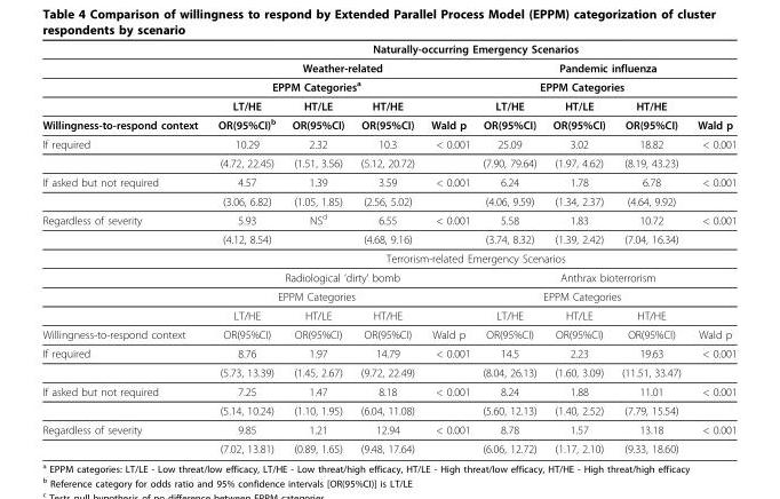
<table><thead><tr><td rowspan="4"></td><td colspan="8">Naturally-occurring Emergency Scenarios</td></tr><tr><td colspan="4">Weather-related</td><td colspan="4">Pandemic influenza</td></tr><tr><td colspan="3">EPPM Categories<sup>a</sup></td><td rowspan="2"></td><td colspan="3">EPPM Categories</td><td rowspan="2"></td></tr><tr><td>LT/HE</td><td>HT/LE</td><td>HT/HE</td><td>LT/HE</td><td>HT/LE</td><td>HT/HE</td></tr></thead><tbody><tr><td>Willingness-to-respond context</td><td>OR(95%CI)<sup>b</sup></td><td>OR(95%CI)</td><td>OR(95%CI)</td><td>Wald p</td><td>OR(95%CI)</td><td>OR(95%CI)</td><td>OR(95%CI)</td><td>Wald p</td></tr><tr><td rowspan="2">If required</td><td>10.29</td><td>2.32</td><td>10.3</td><td>&lt; 0.001</td><td>25.09</td><td>3.02</td><td>18.82</td><td>&lt; 0.001</td></tr><tr><td>(4.72, 22.45)</td><td>(1.51, 3.56)</td><td>(5.12, 20.72)</td><td></td><td>(7.90, 79.64)</td><td>(1.97, 4.62)</td><td>(8.19, 43.23)</td><td></td></tr><tr><td rowspan="2">If asked but not required</td><td>4.57</td><td>1.39</td><td>3.59</td><td>&lt; 0.001</td><td>6.24</td><td>1.78</td><td>6.78</td><td>&lt; 0.001</td></tr><tr><td>(3.06, 6.82)</td><td>(1.05, 1.85)</td><td>(2.56, 5.02)</td><td></td><td>(4.06, 9.59)</td><td>(1.34, 2.37)</td><td>(4.64, 9.92)</td><td></td></tr><tr><td rowspan="6">Regardless of severity</td><td>5.93</td><td>NS<sup>d</sup></td><td>6.55</td><td>&lt; 0.001</td><td>5.58</td><td>1.83</td><td>10.72</td><td>&lt; 0.001</td></tr><tr><td>(4.12, 8.54)</td><td></td><td>(4.68, 9.16)</td><td></td><td>(3.74, 8.32)</td><td>(1.39, 2.42)</td><td>(7.04, 16.34)</td><td></td></tr><tr><td colspan="8">Terrorism-related Emergency Scenarios</td></tr><tr><td colspan="4">Radiological ‘dirty’ bomb</td><td colspan="4">Anthrax bioterrorism</td></tr><tr><td colspan="3">EPPM Categories</td><td></td><td colspan="3">EPPM Categories</td><td></td></tr><tr><td>LT/HE</td><td>HT/LE</td><td>HT/HE</td><td></td><td>LT/HE</td><td>HT/LE</td><td>HT/HE</td><td></td></tr><tr><td>Willingness-to-respond context</td><td>OR(95%CI)</td><td>OR(95%CI)</td><td>OR(95%CI)</td><td>Wald p</td><td>OR(95%CI)</td><td>OR(95%CI)</td><td>OR(95%CI)</td><td>Wald p</td></tr><tr><td rowspan="2">If required</td><td>8.76</td><td>1.97</td><td>14.79</td><td>&lt; 0.001</td><td>14.5</td><td>2.23</td><td>19.63</td><td>&lt; 0.001</td></tr><tr><td>(5.73, 13.39)</td><td>(1.45, 2.67)</td><td>(9.72, 22.49)</td><td></td><td>(8.04, 26.13)</td><td>(1.60, 3.09)</td><td>(11.51, 33.47)</td><td></td></tr><tr><td rowspan="2">If asked but not required</td><td>7.25</td><td>1.47</td><td>8.18</td><td>&lt; 0.001</td><td>8.24</td><td>1.88</td><td>11.01</td><td>&lt; 0.001</td></tr><tr><td>(5.14, 10.24)</td><td>(1.10, 1.95)</td><td>(6.04, 11.08)</td><td></td><td>(5.60, 12.13)</td><td>(1.40, 2.52)</td><td>(7.79, 15.54)</td><td></td></tr><tr><td rowspan="2">Regardless of severity</td><td>9.85</td><td>1.21</td><td>12.94</td><td>&lt; 0.001</td><td>8.78</td><td>1.57</td><td>13.18</td><td>&lt; 0.001</td></tr><tr><td>(7.02, 13.81)</td><td>(0.89, 1.65)</td><td>(9.48, 17.64)</td><td></td><td>(6.06, 12.72)</td><td>(1.17, 2.10)</td><td>(9.33, 18.60)</td><td></td></tr></tbody></table>